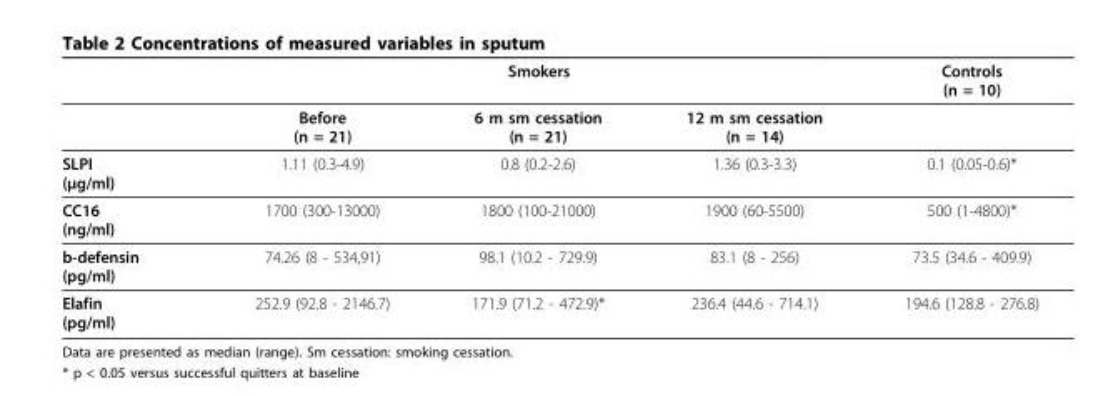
<table><thead><tr><td rowspan="2"></td><td colspan="3">Smokers</td><td rowspan="2">Controls (n = 10)</td></tr><tr><td>Before (n = 21)</td><td>6 m sm cessation (n = 21)</td><td>12 m sm cessation (n = 14)</td></tr></thead><tbody><tr><td>SLPI (μg/ml)</td><td>1.11 (0.3-4.9)</td><td>0.8 (0.2-2.6)</td><td>1.36 (0.3-3.3)</td><td>0.1 (0.05-0.6)*</td></tr><tr><td>CC16 (ng/ml)</td><td>1700 (300-13000)</td><td>1800 (100-21000)</td><td>1900 (60-5500)</td><td>500 (1-4800)*</td></tr><tr><td>b-defensin (pg/ml)</td><td>74.26 (8 - 534,91)</td><td>98.1 (10.2 - 729.9)</td><td>83.1 (8 - 256)</td><td>73.5 (34.6 - 409.9)</td></tr><tr><td>Elafin (pg/ml)</td><td>252.9 (92.8 - 2146.7)</td><td>171.9 (71.2 - 472.9)*</td><td>236.4 (44.6 - 714.1)</td><td>194.6 (128.8 - 276.8)</td></tr></tbody></table>